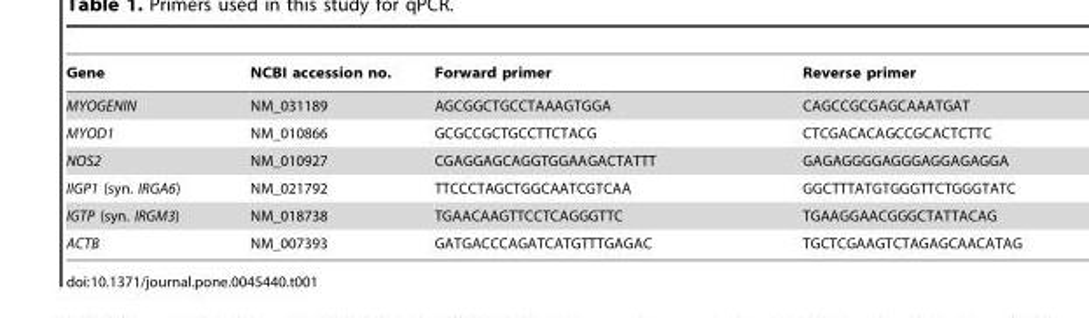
<table><thead><tr><td>Gene</td><td>NCBI accession no.</td><td>Forward primer</td><td>Reverse primer</td></tr></thead><tbody><tr><td>MYOGENIN</td><td>NM_031189</td><td>AGCGGCTGCCTAAAGTGGA</td><td>CAGCCGCGAGCAAATGAT</td></tr><tr><td>MYOD1</td><td>NM_010866</td><td>GCGCCGCTGCCTTCTACG</td><td>CTCGACACAGCCGCACTCTTC</td></tr><tr><td>NOS2</td><td>NM_010927</td><td>CGAGGAGCAGGTGGAAGACTATTT</td><td>GAGAGGGGAGGGAGGAGAGGA</td></tr><tr><td>IIGP1 (syn. IRGA6)</td><td>NM_021792</td><td>TTCCCTAGCTGGCAATCGTCAA</td><td>GGCTTTATGTGGGTTCTGGGTATC</td></tr><tr><td>IGTP (syn. IRGM3)</td><td>NM_018738</td><td>TGAACAAGTTCCTCAGGGTTC</td><td>TGAAGGAACGGGCTATTACAG</td></tr><tr><td>ACTB</td><td>NM_007393</td><td>GATGACCCAGATCATGTTTGAGAC</td><td>TGCTCGAAGTCTAGAGCAACATAG</td></tr></tbody></table>